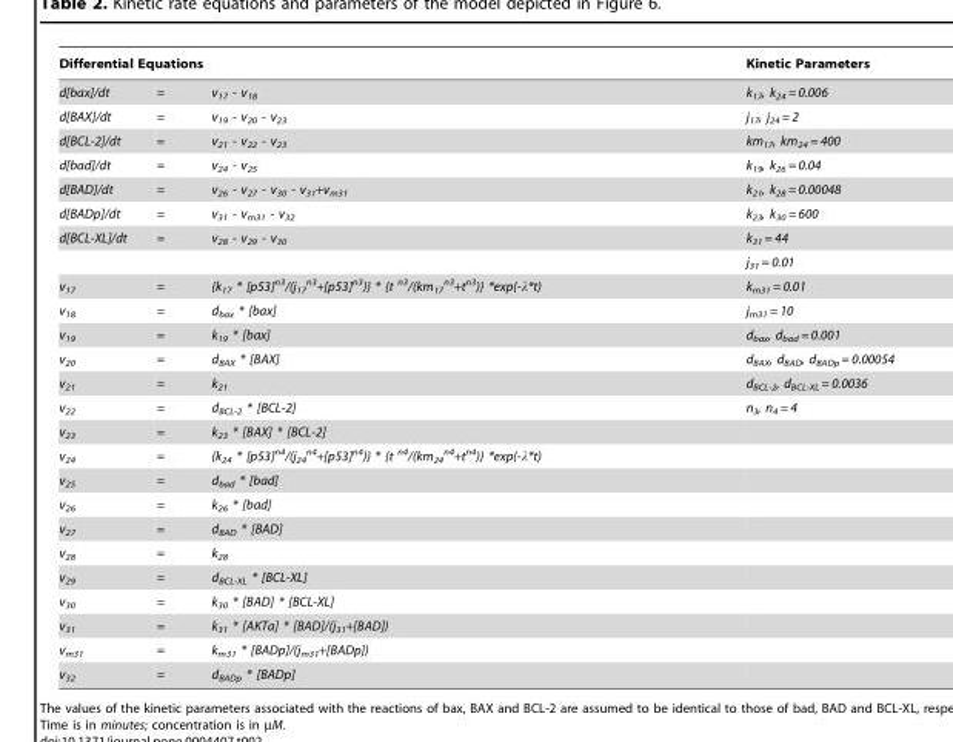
<table><thead><tr><td colspan="3">Differential Equations</td><td rowspan="2">Kinetic Parameters k<sub>17</sub>, k<sub>24</sub> = 0.006</td></tr><tr><td>d[bax]/dt</td><td>=</td><td>v<sub>17</sub> - v<sub>18</sub></td></tr></thead><tbody><tr><td>d[BAX]/dt</td><td>=</td><td>v<sub>19</sub> - v<sub>20</sub> - v<sub>23</sub></td><td>j<sub>17</sub>, j<sub>24</sub> = 2</td></tr><tr><td>d[BCL-2]/dt</td><td>=</td><td>v<sub>21</sub> - v<sub>22</sub> - v<sub>23</sub></td><td>km<sub>17</sub>, km<sub>24</sub> = 400</td></tr><tr><td>d[bad]/dt</td><td>=</td><td>v<sub>24</sub> - v<sub>25</sub></td><td>k<sub>19</sub>, k<sub>26</sub> = 0.04</td></tr><tr><td>d[BAD]/dt</td><td>=</td><td>v<sub>26</sub> - v<sub>27</sub> - v<sub>30</sub> - v<sub>31</sub>+v<sub>m31</sub></td><td>k<sub>21</sub>, k<sub>28</sub> = 0.00048</td></tr><tr><td>d[BADp]/dt</td><td>=</td><td>v<sub>31</sub> - v<sub>m31</sub> - v<sub>32</sub></td><td>k<sub>23</sub>, k<sub>30</sub> = 600</td></tr><tr><td rowspan="2">d[BCL-XL]/dt</td><td>=</td><td>v<sub>28</sub> - v<sub>29</sub> - v<sub>30</sub></td><td>k<sub>31</sub> = 44</td></tr><tr><td></td><td></td><td>j<sub>31</sub> = 0.01</td></tr><tr><td>v<sub>17</sub></td><td>=</td><td>{k<sub>17</sub> * [p53]<sup>n3</sup>/(j<sub>17</sub> <sup>n3</sup>+[p53]<sup>n3</sup>)} * {t <sup>n3</sup>/(km<sub>17</sub> <sup>n3</sup>+t<sup>n3</sup>)} *exp(-λ*t)</td><td>k<sub>m31</sub> = 0.01</td></tr><tr><td>v<sub>18</sub></td><td>=</td><td>d<sub>bax</sub> * [bax]</td><td>j<sub>m31</sub> = 10</td></tr><tr><td>v<sub>19</sub></td><td>=</td><td>k<sub>19</sub> * [bax]</td><td>d<sub>bax</sub>, d<sub>bad</sub> = 0.001</td></tr><tr><td>v<sub>20</sub></td><td>=</td><td>d<sub>BAX</sub> * [BAX]</td><td>d<sub>BAX</sub>, d<sub>BAD</sub>, d<sub>BADp</sub> = 0.00054</td></tr><tr><td>v<sub>21</sub></td><td>=</td><td>k<sub>21</sub></td><td>d<sub>BCL-2</sub>, d<sub>BCL-XL</sub> = 0.0036</td></tr><tr><td>v<sub>22</sub></td><td>=</td><td>d<sub>BCL-2</sub> * [BCL-2]</td><td>n<sub>3</sub>, n<sub>4</sub> = 4</td></tr><tr><td>v<sub>23</sub></td><td>=</td><td>k<sub>23</sub> * [BAX] * [BCL-2]</td><td></td></tr><tr><td>v<sub>24</sub></td><td>=</td><td>{k<sub>24</sub> * [p53]<sup>n4</sup>/(j<sub>24</sub> <sup>n4</sup>+[p53]<sup>n4</sup>)} * {t <sup>n4</sup>/(km<sub>24</sub> <sup>n4</sup>+t<sup>n4</sup>)} *exp(-λ*t)</td><td></td></tr><tr><td>v<sub>25</sub></td><td>=</td><td>d<sub>bad</sub> * [bad]</td><td></td></tr><tr><td>v<sub>26</sub></td><td>=</td><td>k<sub>26</sub> * [bad]</td><td></td></tr><tr><td>v<sub>27</sub></td><td>=</td><td>d<sub>BAD</sub> * [BAD]</td><td></td></tr><tr><td>v<sub>28</sub></td><td>=</td><td>k<sub>28</sub></td><td></td></tr><tr><td>v<sub>29</sub></td><td>=</td><td>d<sub>BCL-XL</sub> * [BCL-XL]</td><td></td></tr><tr><td>v<sub>30</sub></td><td>=</td><td>k<sub>30</sub> * [BAD] * [BCL-XL]</td><td></td></tr><tr><td>v<sub>31</sub></td><td>=</td><td>k<sub>31</sub> * [AKTa] * [BAD]/(j<sub>31</sub>+[BAD])</td><td></td></tr><tr><td>v<sub>m31</sub></td><td>=</td><td>k<sub>m31</sub> * [BADp]/(j<sub>m31</sub>+[BADp])</td><td></td></tr><tr><td>v<sub>32</sub></td><td>=</td><td>d<sub>BADp</sub> * [BADp]</td><td></td></tr></tbody></table>